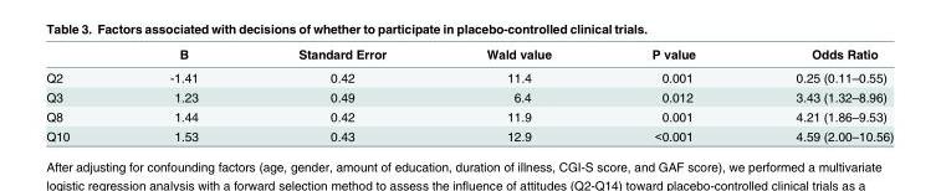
<table><thead><tr><td></td><td>B</td><td>Standard Error</td><td>Wald value</td><td>P value</td><td>Odds Ratio</td></tr></thead><tbody><tr><td>Q2</td><td>-1.41</td><td>0.42</td><td>11.4</td><td>0.001</td><td>0.25 (0.11–0.55)</td></tr><tr><td>Q3</td><td>1.23</td><td>0.49</td><td>6.4</td><td>0.012</td><td>3.43 (1.32–8.96)</td></tr><tr><td>Q8</td><td>1.44</td><td>0.42</td><td>11.9</td><td>0.001</td><td>4.21 (1.86–9.53)</td></tr><tr><td>Q10</td><td>1.53</td><td>0.43</td><td>12.9</td><td>&lt;0.001</td><td>4.59 (2.00–10.56)</td></tr></tbody></table>